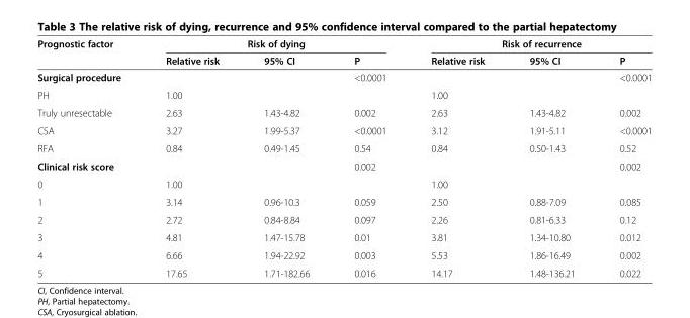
<table><thead><tr><td rowspan="2">Prognostic factor</td><td colspan="3">Risk of dying</td><td colspan="3">Risk of recurrence</td></tr><tr><td>Relative risk</td><td>95% CI</td><td>P</td><td>Relative risk</td><td>95% CI</td><td>P</td></tr></thead><tbody><tr><td>Surgical procedure</td><td></td><td></td><td>&lt;0.0001</td><td></td><td></td><td>&lt;0.0001</td></tr><tr><td>PH</td><td>1.00</td><td></td><td></td><td>1.00</td><td></td><td></td></tr><tr><td>Truly unresectable</td><td>2.63</td><td>1.43-4.82</td><td>0.002</td><td>2.63</td><td>1.43-4.82</td><td>0.002</td></tr><tr><td>CSA</td><td>3.27</td><td>1.99-5.37</td><td>&lt;0.0001</td><td>3.12</td><td>1.91-5.11</td><td>&lt;0.0001</td></tr><tr><td>RFA</td><td>0.84</td><td>0.49-1.45</td><td>0.54</td><td>0.84</td><td>0.50-1.43</td><td>0.52</td></tr><tr><td>Clinical risk score</td><td></td><td></td><td>0.002</td><td></td><td></td><td>0.002</td></tr><tr><td>0</td><td>1.00</td><td></td><td></td><td>1.00</td><td></td><td></td></tr><tr><td>1</td><td>3.14</td><td>0.96-10.3</td><td>0.059</td><td>2.50</td><td>0.88-7.09</td><td>0.085</td></tr><tr><td>2</td><td>2.72</td><td>0.84-8.84</td><td>0.097</td><td>2.26</td><td>0.81-6.33</td><td>0.12</td></tr><tr><td>3</td><td>4.81</td><td>1.47-15.78</td><td>0.01</td><td>3.81</td><td>1.34-10.80</td><td>0.012</td></tr><tr><td>4</td><td>6.66</td><td>1.94-22.92</td><td>0.003</td><td>5.53</td><td>1.86-16.49</td><td>0.002</td></tr><tr><td>5</td><td>17.65</td><td>1.71-182.66</td><td>0.016</td><td>14.17</td><td>1.48-136.21</td><td>0.022</td></tr></tbody></table>